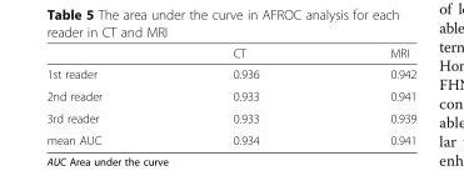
<table><thead><tr><td></td><td>CT</td><td>MRI</td></tr></thead><tbody><tr><td>1st reader</td><td>0.936</td><td>0.942</td></tr><tr><td>2nd reader</td><td>0.933</td><td>0.941</td></tr><tr><td>3rd reader</td><td>0.933</td><td>0.939</td></tr><tr><td>mean AUC</td><td>0.934</td><td>0.941</td></tr></tbody></table>